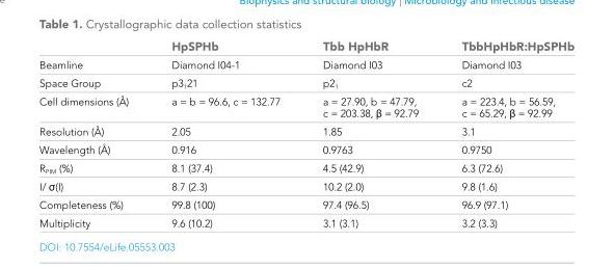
<table><thead><tr><td></td><td>HpSPHb</td><td>Tbb HpHbR</td><td>TbbHpHbR:HpSPHb</td></tr></thead><tbody><tr><td>Beamline</td><td>Diamond I04-1</td><td>Diamond I03</td><td>Diamond I03</td></tr><tr><td>Space Group</td><td>p3<sub>1</sub>21</td><td>p2<sub>1</sub></td><td>c2</td></tr><tr><td>Cell dimensions (Å)</td><td>a = b = 96.6, c = 132.77</td><td>a = 27.90, b = 47.79, c = 203.38, β = 92.79</td><td>a = 223.4, b = 56.59, c = 65.29, β = 92.99</td></tr><tr><td>Resolution (Å)</td><td>2.05</td><td>1.85</td><td>3.1</td></tr><tr><td>Wavelength (Å)</td><td>0.916</td><td>0.9763</td><td>0.9750</td></tr><tr><td>R<sub>PIM</sub> (%)</td><td>8.1 (37.4)</td><td>4.5 (42.9)</td><td>6.3 (72.6)</td></tr><tr><td>I/ σ(I)</td><td>8.7 (2.3)</td><td>10.2 (2.0)</td><td>9.8 (1.6)</td></tr><tr><td>Completeness (%)</td><td>99.8 (100)</td><td>97.4 (96.5)</td><td>96.9 (97.1)</td></tr><tr><td>Multiplicity</td><td>9.6 (10.2)</td><td>3.1 (3.1)</td><td>3.2 (3.3)</td></tr></tbody></table>